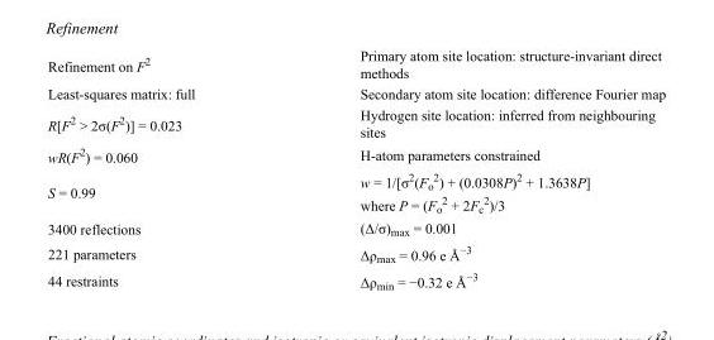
<table><tbody><tr><td>Refinement on F<sup>2</sup></td><td>Primary atom site location: structure-invariant direct methods</td></tr><tr><td>Least-squares matrix: full</td><td>Secondary atom site location: difference Fourier map</td></tr><tr><td>R[F<sup>2</sup> &gt; 2σ(F<sup>2</sup>)] = 0.023</td><td>Hydrogen site location: inferred from neighbouring sites</td></tr><tr><td>wR(F<sup>2</sup>) = 0.060</td><td>H-atom parameters constrained</td></tr><tr><td>S = 0.99</td><td>w = 1/[σ<sup>2</sup>(F<sub>o</sub> <sup>2</sup>) + (0.0308P)<sup>2</sup> + 1.3638P] where P = (F<sub>o</sub> <sup>2</sup> + 2F<sub>c</sub> <sup>2</sup>)/3</td></tr><tr><td>3400 reflections</td><td>(Δ/σ)<sub>max</sub> = 0.001</td></tr><tr><td>221 parameters</td><td>Δρ<sub>max</sub> = 0.96 e Å<sup>−3</sup></td></tr><tr><td>44 restraints</td><td>Δρ<sub>min</sub> = −0.32 e Å<sup>−3</sup></td></tr></tbody></table>